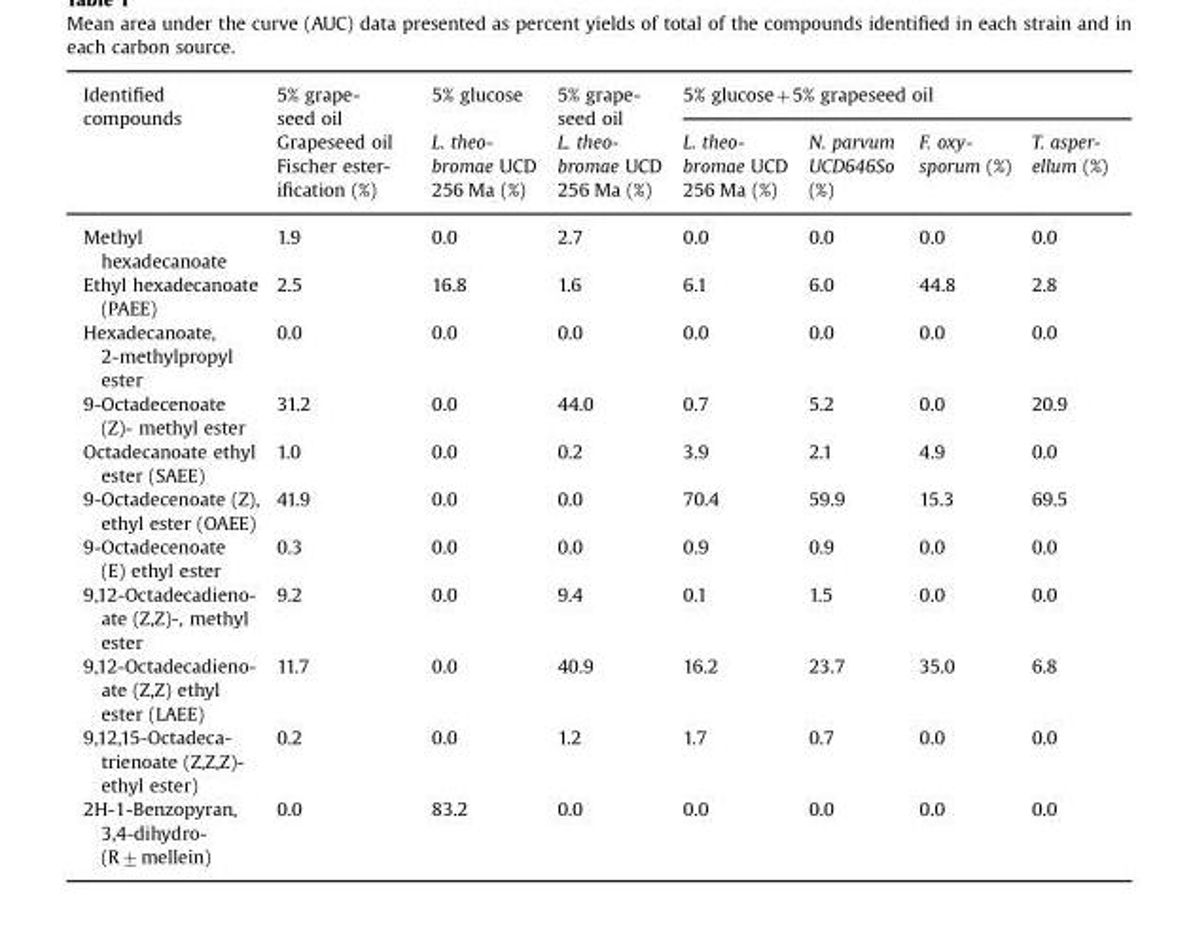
<table><thead><tr><td rowspan="2">Identified compounds</td><td rowspan="2">5% grape- seed oil Grapeseed oil Fischer ester- ification (%)</td><td rowspan="2">5% glucose L. theo- bromae UCD 256 Ma (%)</td><td rowspan="2">5% grape- seed oil L. theo- bromae UCD 256 Ma (%)</td><td colspan="4">5% glucose+5% grapeseed oil</td></tr><tr><td>L. theo- bromae UCD 256 Ma (%)</td><td>N. parvum UCD646So (%)</td><td>F. oxy- sporum (%)</td><td>T. asper- ellum (%)</td></tr></thead><tbody><tr><td>Methyl hexadecanoate</td><td>1.9</td><td>0.0</td><td>2.7</td><td>0.0</td><td>0.0</td><td>0.0</td><td>0.0</td></tr><tr><td>Ethyl hexadecanoate (PAEE)</td><td>2.5</td><td>16.8</td><td>1.6</td><td>6.1</td><td>6.0</td><td>44.8</td><td>2.8</td></tr><tr><td>Hexadecanoate, 2-methylpropyl ester</td><td>0.0</td><td>0.0</td><td>0.0</td><td>0.0</td><td>0.0</td><td>0.0</td><td>0.0</td></tr><tr><td>9-Octadecenoate (Z)- methyl ester</td><td>31.2</td><td>0.0</td><td>44.0</td><td>0.7</td><td>5.2</td><td>0.0</td><td>20.9</td></tr><tr><td>Octadecanoate ethyl ester (SAEE)</td><td>1.0</td><td>0.0</td><td>0.2</td><td>3.9</td><td>2.1</td><td>4.9</td><td>0.0</td></tr><tr><td>9-Octadecenoate (Z), ethyl ester (OAEE)</td><td>41.9</td><td>0.0</td><td>0.0</td><td>70.4</td><td>59.9</td><td>15.3</td><td>69.5</td></tr><tr><td>9-Octadecenoate (E) ethyl ester</td><td>0.3</td><td>0.0</td><td>0.0</td><td>0.9</td><td>0.9</td><td>0.0</td><td>0.0</td></tr><tr><td>9,12-Octadecadieno- ate (Z,Z)-, methyl ester</td><td>9.2</td><td>0.0</td><td>9.4</td><td>0.1</td><td>1.5</td><td>0.0</td><td>0.0</td></tr><tr><td>9,12-Octadecadieno- ate (Z,Z) ethyl ester (LAEE)</td><td>11.7</td><td>0.0</td><td>40.9</td><td>16.2</td><td>23.7</td><td>35.0</td><td>6.8</td></tr><tr><td>9,12,15-Octadeca- trienoate (Z,Z,Z)- ethyl ester)</td><td>0.2</td><td>0.0</td><td>1.2</td><td>1.7</td><td>0.7</td><td>0.0</td><td>0.0</td></tr><tr><td>2H-1-Benzopyran, 3,4-dihydro- (R±mellein)</td><td>0.0</td><td>83.2</td><td>0.0</td><td>0.0</td><td>0.0</td><td>0.0</td><td>0.0</td></tr></tbody></table>